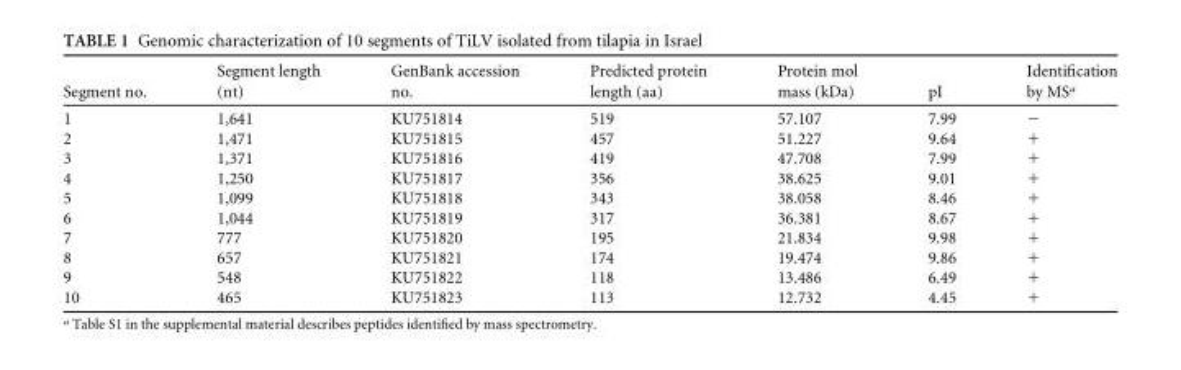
<table><thead><tr><td>Segment no.</td><td>Segment length (nt)</td><td>GenBank accession no.</td><td>Predicted protein length (aa)</td><td>Protein mol mass (kDa)</td><td>pI</td><td>Identification by MS<sup>a</sup></td></tr></thead><tbody><tr><td>1</td><td>1,641</td><td>KU751814</td><td>519</td><td>57.107</td><td>7.99</td><td>−</td></tr><tr><td>2</td><td>1,471</td><td>KU751815</td><td>457</td><td>51.227</td><td>9.64</td><td>+</td></tr><tr><td>3</td><td>1,371</td><td>KU751816</td><td>419</td><td>47.708</td><td>7.99</td><td>+</td></tr><tr><td>4</td><td>1,250</td><td>KU751817</td><td>356</td><td>38.625</td><td>9.01</td><td>+</td></tr><tr><td>5</td><td>1,099</td><td>KU751818</td><td>343</td><td>38.058</td><td>8.46</td><td>+</td></tr><tr><td>6</td><td>1,044</td><td>KU751819</td><td>317</td><td>36.381</td><td>8.67</td><td>+</td></tr><tr><td>7</td><td>777</td><td>KU751820</td><td>195</td><td>21.834</td><td>9.98</td><td>+</td></tr><tr><td>8</td><td>657</td><td>KU751821</td><td>174</td><td>19.474</td><td>9.86</td><td>+</td></tr><tr><td>9</td><td>548</td><td>KU751822</td><td>118</td><td>13.486</td><td>6.49</td><td>+</td></tr><tr><td>10</td><td>465</td><td>KU751823</td><td>113</td><td>12.732</td><td>4.45</td><td>+</td></tr></tbody></table>